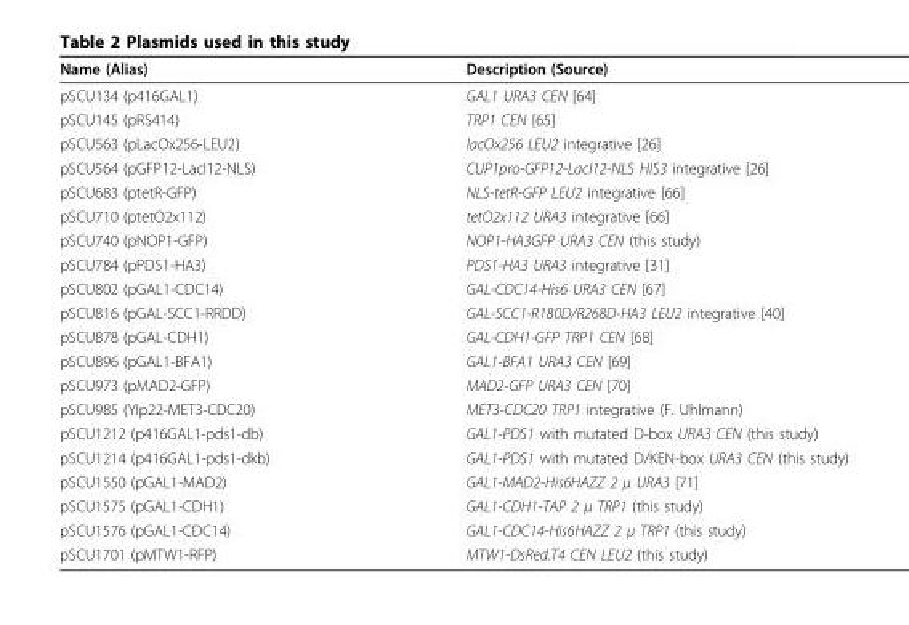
<table><thead><tr><td>Name (Alias)</td><td>Description (Source)</td></tr></thead><tbody><tr><td>pSCU134 (p416GAL1)</td><td>GAL1 URA3 CEN [64]</td></tr><tr><td>pSCU145 (pRS414)</td><td>TRP1 CEN [65]</td></tr><tr><td>pSCU563 (pLacOx256-LEU2)</td><td>lacOx256 LEU2 integrative [26]</td></tr><tr><td>pSCU564 (pGFP12-LacI12-NLS)</td><td>CUP1pro-GFP12-LacI12-NLS HIS3 integrative [26]</td></tr><tr><td>pSCU683 (ptetR-GFP)</td><td>NLS-tetR-GFP LEU2 integrative [66]</td></tr><tr><td>pSCU710 (ptetO2x112)</td><td>tetO2x112 URA3 integrative [66]</td></tr><tr><td>pSCU740 (pNOP1-GFP)</td><td>NOP1-HA3GFP URA3 CEN (this study)</td></tr><tr><td>pSCU784 (pPDS1-HA3)</td><td>PDS1-HA3 URA3 integrative [31]</td></tr><tr><td>pSCU802 (pGAL1-CDC14)</td><td>GAL-CDC14-His6 URA3 CEN [67]</td></tr><tr><td>pSCU816 (pGAL-SCC1-RRDD)</td><td>GAL-SCC1-R180D/R268D-HA3 LEU2 integrative [40]</td></tr><tr><td>pSCU878 (pGAL-CDH1)</td><td>GAL-CDH1-GFP TRP1 CEN [68]</td></tr><tr><td>pSCU896 (pGAL1-BFA1)</td><td>GAL1-BFA1 URA3 CEN [69]</td></tr><tr><td>pSCU973 (pMAD2-GFP)</td><td>MAD2-GFP URA3 CEN [70]</td></tr><tr><td>pSCU985 (YIp22-MET3-CDC20)</td><td>MET3-CDC20 TRP1 integrative (F. Uhlmann)</td></tr><tr><td>pSCU1212 (p416GAL1-pds1-db)</td><td>GAL1-PDS1 with mutated D-box URA3 CEN (this study)</td></tr><tr><td>pSCU1214 (p416GAL1-pds1-dkb)</td><td>GAL1-PDS1 with mutated D/KEN-box URA3 CEN (this study)</td></tr><tr><td>pSCU1550 (pGAL1-MAD2)</td><td>GAL1-MAD2-His6HAZZ 2 μ URA3 [71]</td></tr><tr><td>pSCU1575 (pGAL1-CDH1)</td><td>GAL1-CDH1-TAP 2 μ TRP1 (this study)</td></tr><tr><td>pSCU1576 (pGAL1-CDC14)</td><td>GAL1-CDC14-His6HAZZ 2 μ TRP1 (this study)</td></tr><tr><td>pSCU1701 (pMTW1-RFP)</td><td>MTW1-DsRed.T4 CEN LEU2 (this study)</td></tr></tbody></table>